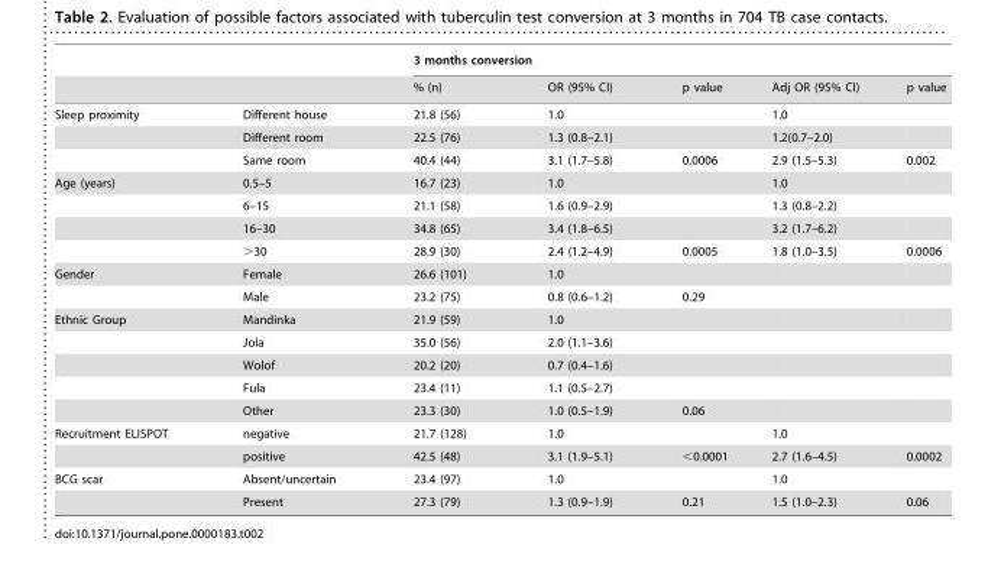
<table><thead><tr><td rowspan="2"></td><td rowspan="2"></td><td colspan="5">3 months conversion</td></tr><tr><td>% (n)</td><td>OR (95% CI)</td><td>p value</td><td>Adj OR (95% CI)</td><td>p value</td></tr></thead><tbody><tr><td rowspan="3">Sleep proximity</td><td>Different house</td><td>21.8 (56)</td><td>1.0</td><td></td><td>1.0</td><td></td></tr><tr><td>Different room</td><td>22.5 (76)</td><td>1.3 (0.8–2.1)</td><td></td><td>1.2(0.7–2.0)</td><td></td></tr><tr><td>Same room</td><td>40.4 (44)</td><td>3.1 (1.7–5.8)</td><td>0.0006</td><td>2.9 (1.5–5.3)</td><td>0.002</td></tr><tr><td rowspan="4">Age (years)</td><td>0.5–5</td><td>16.7 (23)</td><td>1.0</td><td></td><td>1.0</td><td></td></tr><tr><td>6–15</td><td>21.1 (58)</td><td>1.6 (0.9–2.9)</td><td></td><td>1.3 (0.8–2.2)</td><td></td></tr><tr><td>16–30</td><td>34.8 (65)</td><td>3.4 (1.8–6.5)</td><td></td><td>3.2 (1.7–6.2)</td><td></td></tr><tr><td>&gt;30</td><td>28.9 (30)</td><td>2.4 (1.2–4.9)</td><td>0.0005</td><td>1.8 (1.0–3.5)</td><td>0.0006</td></tr><tr><td rowspan="2">Gender</td><td>Female</td><td>26.6 (101)</td><td>1.0</td><td></td><td></td><td></td></tr><tr><td>Male</td><td>23.2 (75)</td><td>0.8 (0.6–1.2)</td><td>0.29</td><td></td><td></td></tr><tr><td rowspan="5">Ethnic Group</td><td>Mandinka</td><td>21.9 (59)</td><td>1.0</td><td></td><td></td><td></td></tr><tr><td>Jola</td><td>35.0 (56)</td><td>2.0 (1.1–3.6)</td><td></td><td></td><td></td></tr><tr><td>Wolof</td><td>20.2 (20)</td><td>0.7 (0.4–1.6)</td><td></td><td></td><td></td></tr><tr><td>Fula</td><td>23.4 (11)</td><td>1.1 (0.5–2.7)</td><td></td><td></td><td></td></tr><tr><td>Other</td><td>23.3 (30)</td><td>1.0 (0.5–1.9)</td><td>0.06</td><td></td><td></td></tr><tr><td rowspan="2">Recruitment ELISPOT</td><td>negative</td><td>21.7 (128)</td><td>1.0</td><td></td><td>1.0</td><td></td></tr><tr><td>positive</td><td>42.5 (48)</td><td>3.1 (1.9–5.1)</td><td>&lt;0.0001</td><td>2.7 (1.6–4.5)</td><td>0.0002</td></tr><tr><td rowspan="2">BCG scar</td><td>Absent/uncertain</td><td>23.4 (97)</td><td>1.0</td><td></td><td>1.0</td><td></td></tr><tr><td>Present</td><td>27.3 (79)</td><td>1.3 (0.9–1.9)</td><td>0.21</td><td>1.5 (1.0–2.3)</td><td>0.06</td></tr></tbody></table>